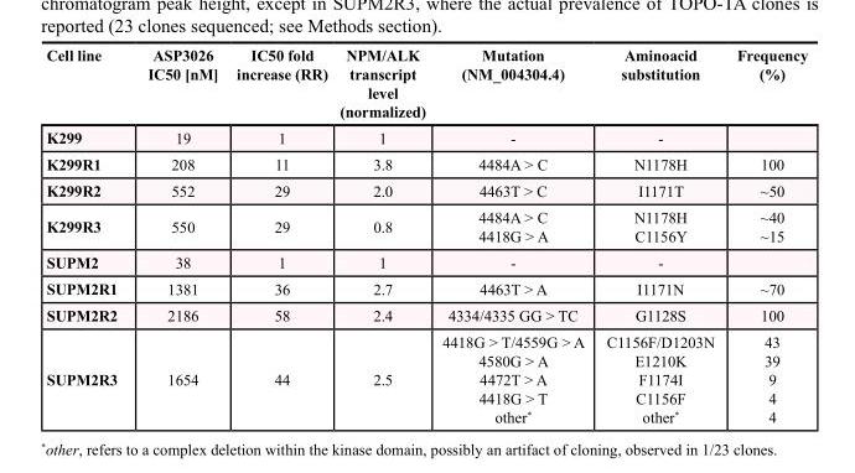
<table><thead><tr><td>Cell line</td><td>ASP3026 IC50 [nM]</td><td>IC50 fold increase (RR)</td><td>NPM/ALK transcript level (normalized)</td><td>Mutation (NM_004304.4)</td><td>Aminoacid substitution</td><td>Frequency (%)</td></tr></thead><tbody><tr><td>K299</td><td>19</td><td>1</td><td>1</td><td>-</td><td>-</td><td></td></tr><tr><td>K299R1</td><td>208</td><td>11</td><td>3.8</td><td>4484A &gt; C</td><td>N1178H</td><td>100</td></tr><tr><td>K299R2</td><td>552</td><td>29</td><td>2.0</td><td>4463T &gt; C</td><td>I1171T</td><td>~50</td></tr><tr><td>K299R3</td><td>550</td><td>29</td><td>0.8</td><td>4484A &gt; C 4418G &gt; A</td><td>N1178H C1156Y</td><td>~40 ~15</td></tr><tr><td>SUPM2</td><td>38</td><td>1</td><td>1</td><td>-</td><td>-</td><td></td></tr><tr><td>SUPM2R1</td><td>1381</td><td>36</td><td>2.7</td><td>4463T &gt; A</td><td>I1171N</td><td>~70</td></tr><tr><td>SUPM2R2</td><td>2186</td><td>58</td><td>2.4</td><td>4334/4335 GG &gt; TC</td><td>G1128S</td><td>100</td></tr><tr><td>SUPM2R3</td><td>1654</td><td>44</td><td>2.5</td><td>4418G &gt; T/4559G &gt; A 4580G &gt; A 4472T &gt; A 4418G &gt; T other*</td><td>C1156F/D1203N E1210K F1174I C1156F other*</td><td>43 39 9 4 4</td></tr></tbody></table>